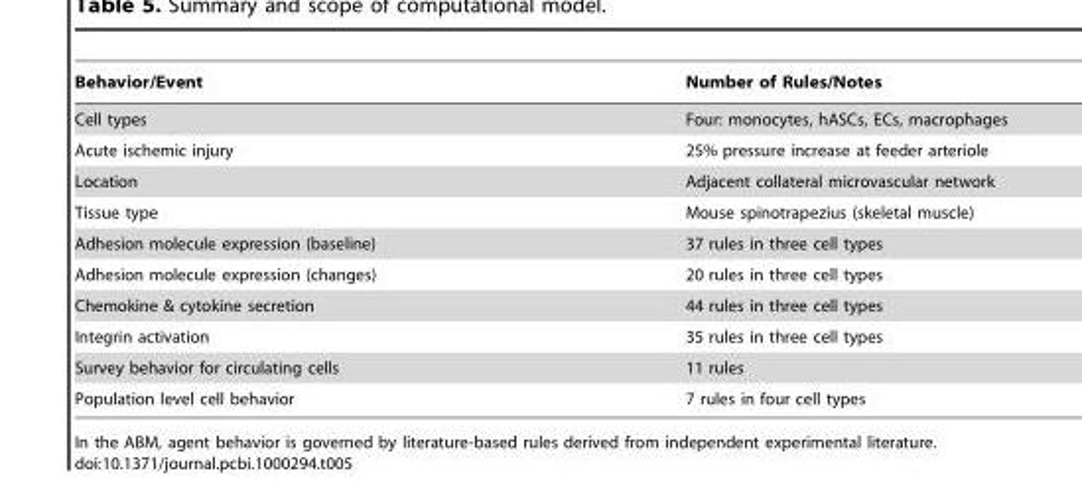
<table><thead><tr><td>Behavior/Event</td><td>Number of Rules/Notes</td></tr></thead><tbody><tr><td>Cell types</td><td>Four: monocytes, hASCs, ECs, macrophages</td></tr><tr><td>Acute ischemic injury</td><td>25% pressure increase at feeder arteriole</td></tr><tr><td>Location</td><td>Adjacent collateral microvascular network</td></tr><tr><td>Tissue type</td><td>Mouse spinotrapezius (skeletal muscle)</td></tr><tr><td>Adhesion molecule expression (baseline)</td><td>37 rules in three cell types</td></tr><tr><td>Adhesion molecule expression (changes)</td><td>20 rules in three cell types</td></tr><tr><td>Chemokine &amp; cytokine secretion</td><td>44 rules in three cell types</td></tr><tr><td>Integrin activation</td><td>35 rules in three cell types</td></tr><tr><td>Survey behavior for circulating cells</td><td>11 rules</td></tr><tr><td>Population level cell behavior</td><td>7 rules in four cell types</td></tr></tbody></table>